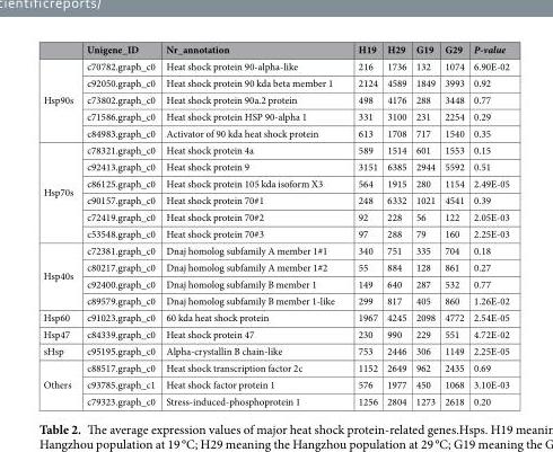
<table><thead><tr><td></td><td>Unigene_ID</td><td>Nr_annotation</td><td>H19</td><td>H29</td><td>G19</td><td>G29</td><td>P-value</td></tr></thead><tbody><tr><td rowspan="5">Hsp90s</td><td>c70782.graph_c0</td><td>Heat shock protein 90-alpha-like</td><td>216</td><td>1736</td><td>132</td><td>1074</td><td>6.90E-02</td></tr><tr><td>c92050.graph_c0</td><td>Heat shock protein 90 kda beta member 1</td><td>2124</td><td>4589</td><td>1849</td><td>3993</td><td>0.92</td></tr><tr><td>c73802.graph_c0</td><td>Heat shock protein 90a.2 protein</td><td>498</td><td>4176</td><td>288</td><td>3448</td><td>0.77</td></tr><tr><td>c71586.graph_c0</td><td>Heat shock protein HSP 90-alpha 1</td><td>331</td><td>3100</td><td>231</td><td>2254</td><td>0.29</td></tr><tr><td>c84983.graph_c0</td><td>Activator of 90 kda heat shock protein</td><td>613</td><td>1708</td><td>717</td><td>1540</td><td>0.35</td></tr><tr><td rowspan="6">Hsp70s</td><td>c78321.graph_c0</td><td>Heat shock protein 4a</td><td>589</td><td>1514</td><td>601</td><td>1553</td><td>0.15</td></tr><tr><td>c92413.graph_c0</td><td>Heat shock protein 9</td><td>3151</td><td>6385</td><td>2944</td><td>5592</td><td>0.51</td></tr><tr><td>c86125.graph_c0</td><td>Heat shock protein 105 kda isoform X3</td><td>564</td><td>1915</td><td>280</td><td>1154</td><td>2.49E-05</td></tr><tr><td>c90157.graph_c0</td><td>Heat shock protein 70#1</td><td>248</td><td>6332</td><td>1021</td><td>4541</td><td>0.39</td></tr><tr><td>c72419.graph_c0</td><td>Heat shock protein 70#2</td><td>92</td><td>228</td><td>56</td><td>122</td><td>2.05E-03</td></tr><tr><td>c53548.graph_c0</td><td>Heat shock protein 70#3</td><td>97</td><td>288</td><td>79</td><td>160</td><td>2.25E-03</td></tr><tr><td rowspan="4">Hsp40s</td><td>c72381.graph_c0</td><td>Dnaj homolog subfamily A member 1#1</td><td>340</td><td>751</td><td>335</td><td>704</td><td>0.18</td></tr><tr><td>c80217.graph_c0</td><td>Dnaj homolog subfamily A member 1#2</td><td>55</td><td>884</td><td>128</td><td>861</td><td>0.27</td></tr><tr><td>c92400.graph_c0</td><td>Dnaj homolog subfamily B member 1</td><td>149</td><td>640</td><td>287</td><td>532</td><td>0.77</td></tr><tr><td>c89579.graph_c0</td><td>Dnaj homolog subfamily B member 1-like</td><td>299</td><td>817</td><td>405</td><td>860</td><td>1.26E-02</td></tr><tr><td>Hsp60</td><td>c91023.graph_c0</td><td>60 kda heat shock protein</td><td>1967</td><td>4245</td><td>2098</td><td>4772</td><td>2.54E-05</td></tr><tr><td>Hsp47</td><td>c84339.graph_c0</td><td>Heat shock protein 47</td><td>230</td><td>990</td><td>229</td><td>551</td><td>4.72E-02</td></tr><tr><td>sHsp</td><td>c95195.graph_c0</td><td>Alpha-crystallin B chain-like</td><td>753</td><td>2446</td><td>306</td><td>1149</td><td>2.25E-05</td></tr><tr><td rowspan="3">Others</td><td>c88517.graph_c0</td><td>Heat shock transcription factor 2c</td><td>1152</td><td>2649</td><td>962</td><td>2435</td><td>0.69</td></tr><tr><td>c93785.graph_c1</td><td>Heat shock factor protein 1</td><td>576</td><td>1977</td><td>450</td><td>1068</td><td>3.10E-03</td></tr><tr><td>c79323.graph_c0</td><td>Stress-induced-phosphoprotein 1</td><td>1256</td><td>2804</td><td>1273</td><td>2618</td><td>0.20</td></tr></tbody></table>